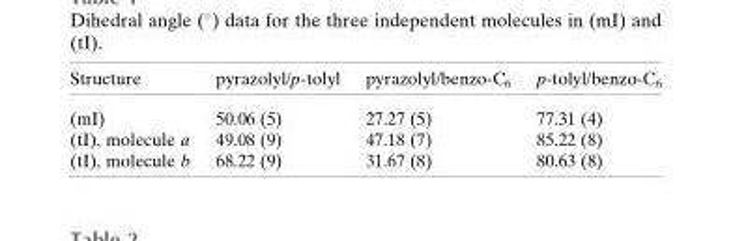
<table><thead><tr><td>Structure</td><td>pyrazolyl/p-tolyl</td><td>pyrazolyl/benzo-C<sub>6</sub></td><td>p-tolyl/benzo-C<sub>6</sub></td></tr></thead><tbody><tr><td>(mI)</td><td>50.06 (5)</td><td>27.27 (5)</td><td>77.31 (4)</td></tr><tr><td>(tI), molecule a</td><td>49.08 (9)</td><td>47.18 (7)</td><td>85.22 (8)</td></tr><tr><td>(tI), molecule b</td><td>68.22 (9)</td><td>31.67 (8)</td><td>80.63 (8)</td></tr></tbody></table>